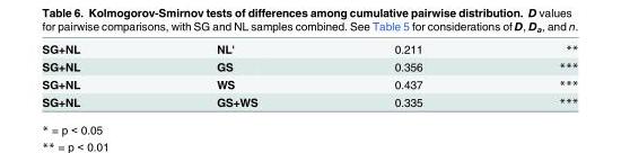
<table><tbody><tr><td>SG+NL</td><td>NL&#x27;</td><td>0.211</td><td>**</td></tr><tr><td>SG+NL</td><td>GS</td><td>0.356</td><td>***</td></tr><tr><td>SG+NL</td><td>WS</td><td>0.437</td><td>***</td></tr><tr><td>SG+NL</td><td>GS+WS</td><td>0.335</td><td>***</td></tr></tbody></table>